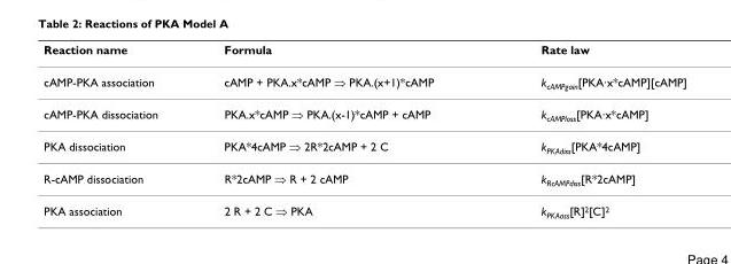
<table><thead><tr><td>Reaction name</td><td>Formula</td><td>Rate law</td></tr></thead><tbody><tr><td>cAMP-PKA association</td><td>cAMP + PKA.x*cAMP ⇒ PKA.(x+1)*cAMP</td><td>k<sub>cAMPgain</sub>[PKA·x*cAMP][cAMP]</td></tr><tr><td>cAMP-PKA dissociation</td><td>PKA.x*cAMP ⇒ PKA.(x-1)*cAMP + cAMP</td><td>k<sub>cAMPloss</sub>[PKA·x*cAMP]</td></tr><tr><td>PKA dissociation</td><td>PKA*4cAMP ⇒ 2R*2cAMP + 2 C</td><td>k<sub>PKAdiss</sub>[PKA*4cAMP]</td></tr><tr><td>R-cAMP dissociation</td><td>R*2cAMP ⇒ R + 2 cAMP</td><td>k<sub>RcAMPdiss</sub>[R*2cAMP]</td></tr><tr><td>PKA association</td><td>2 R + 2 C ⇒ PKA</td><td>k<sub>PKAass</sub>[R]<sup>2</sup>[C]<sup>2</sup></td></tr></tbody></table>